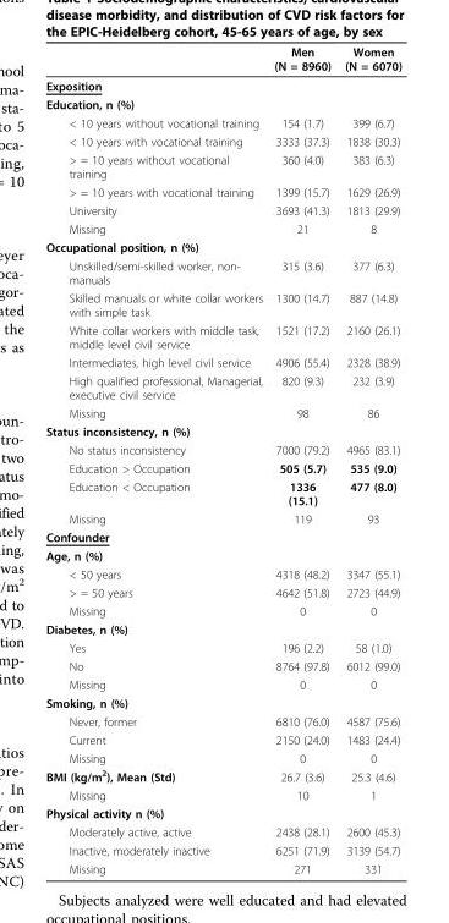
<table><thead><tr><td></td><td>Men (N = 8960)</td><td>Women (N = 6070)</td></tr></thead><tbody><tr><td colspan="3">Exposition</td></tr><tr><td colspan="3">Education, n (%)</td></tr><tr><td>&lt; 10 years without vocational training</td><td>154 (1.7)</td><td>399 (6.7)</td></tr><tr><td>&lt; 10 years with vocational training</td><td>3333 (37.3)</td><td>1838 (30.3)</td></tr><tr><td>&gt; = 10 years without vocational training</td><td>360 (4.0)</td><td>383 (6.3)</td></tr><tr><td>&gt; = 10 years with vocational training</td><td>1399 (15.7)</td><td>1629 (26.9)</td></tr><tr><td>University</td><td>3693 (41.3)</td><td>1813 (29.9)</td></tr><tr><td>Missing</td><td>21</td><td>8</td></tr><tr><td colspan="3">Occupational position, n (%)</td></tr><tr><td>Unskilled/semi-skilled worker, non- manuals</td><td>315 (3.6)</td><td>377 (6.3)</td></tr><tr><td>Skilled manuals or white collar workers with simple task</td><td>1300 (14.7)</td><td>887 (14.8)</td></tr><tr><td>White collar workers with middle task, middle level civil service</td><td>1521 (17.2)</td><td>2160 (26.1)</td></tr><tr><td>Intermediates, high level civil service</td><td>4906 (55.4)</td><td>2328 (38.9)</td></tr><tr><td>High qualified professional, Managerial, executive civil service</td><td>820 (9.3)</td><td>232 (3.9)</td></tr><tr><td>Missing</td><td>98</td><td>86</td></tr><tr><td colspan="3">Status inconsistency, n (%)</td></tr><tr><td>No status inconsistency</td><td>7000 (79.2)</td><td>4965 (83.1)</td></tr><tr><td>Education &gt; Occupation</td><td>505 (5.7)</td><td>535 (9.0)</td></tr><tr><td>Education &lt; Occupation</td><td>1336 (15.1)</td><td>477 (8.0)</td></tr><tr><td>Missing</td><td>119</td><td>93</td></tr><tr><td colspan="3">Confounder</td></tr><tr><td colspan="3">Age, n (%)</td></tr><tr><td>&lt; 50 years</td><td>4318 (48.2)</td><td>3347 (55.1)</td></tr><tr><td>&gt; = 50 years</td><td>4642 (51.8)</td><td>2723 (44.9)</td></tr><tr><td>Missing</td><td>0</td><td>0</td></tr><tr><td colspan="3">Diabetes, n (%)</td></tr><tr><td>Yes</td><td>196 (2.2)</td><td>58 (1.0)</td></tr><tr><td>No</td><td>8764 (97.8)</td><td>6012 (99.0)</td></tr><tr><td>Missing</td><td>0</td><td>0</td></tr><tr><td colspan="3">Smoking, n (%)</td></tr><tr><td>Never, former</td><td>6810 (76.0)</td><td>4587 (75.6)</td></tr><tr><td>Current</td><td>2150 (24.0)</td><td>1483 (24.4)</td></tr><tr><td>Missing</td><td>0</td><td>0</td></tr><tr><td>BMI (kg/m<sup>2</sup>), Mean (Std)</td><td>26.7 (3.6)</td><td>25.3 (4.6)</td></tr><tr><td>Missing</td><td>10</td><td>1</td></tr><tr><td colspan="3">Physical activity n (%)</td></tr><tr><td>Moderately active, active</td><td>2438 (28.1)</td><td>2600 (45.3)</td></tr><tr><td>Inactive, moderately inactive</td><td>6251 (71.9)</td><td>3139 (54.7)</td></tr><tr><td>Missing</td><td>271</td><td>331</td></tr></tbody></table>